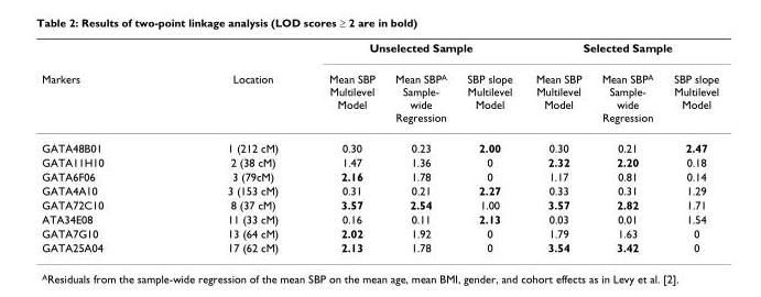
<table><thead><tr><td rowspan="2">Markers</td><td rowspan="2">Location</td><td colspan="3">Unselected Sample</td><td colspan="3">Selected Sample</td></tr><tr><td>Mean SBP Multilevel Model</td><td>Mean SBPA Sample- wide Regression</td><td>SBP slope Multilevel Model</td><td>Mean SBP Multilevel Model</td><td>Mean SBPA Sample- wide Regression</td><td>SBP slope Multilevel Model</td></tr></thead><tbody><tr><td>GATA48B01</td><td>1 (212 cM)</td><td>0.30</td><td>0.23</td><td>2.00</td><td>0.30</td><td>0.21</td><td>2.47</td></tr><tr><td>GATA11H10</td><td>2 (38 cM)</td><td>1.47</td><td>1.36</td><td>0</td><td>2.32</td><td>2.20</td><td>0.18</td></tr><tr><td>GATA6F06</td><td>3 (79cM)</td><td>2.16</td><td>1.78</td><td>0</td><td>1.17</td><td>0.81</td><td>0.14</td></tr><tr><td>GATA4A10</td><td>3 (153 cM)</td><td>0.31</td><td>0.21</td><td>2.27</td><td>0.33</td><td>0.31</td><td>1.29</td></tr><tr><td>GATA72C10</td><td>8 (37 cM)</td><td>3.57</td><td>2.54</td><td>1.00</td><td>3.57</td><td>2.82</td><td>1.71</td></tr><tr><td>ATA34E08</td><td>11 (33 cM)</td><td>0.16</td><td>0.11</td><td>2.13</td><td>0.03</td><td>0.01</td><td>1.54</td></tr><tr><td>GATA7G10</td><td>13 (64 cM)</td><td>2.02</td><td>1.92</td><td>0</td><td>1.79</td><td>1.63</td><td>0</td></tr><tr><td>GATA25A04</td><td>17 (62 cM)</td><td>2.13</td><td>1.78</td><td>0</td><td>3.54</td><td>3.42</td><td>0</td></tr></tbody></table>